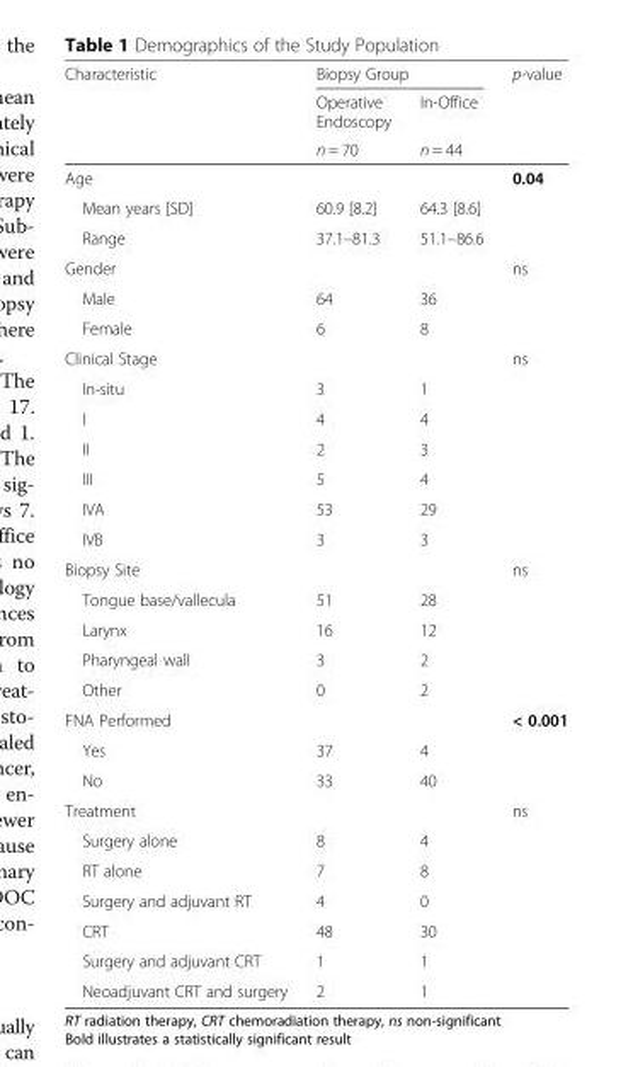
<table><thead><tr><td rowspan="3">Characteristic</td><td colspan="2">Biopsy Group</td><td rowspan="3">p-value</td></tr><tr><td rowspan="2">Operative Endoscopy n = 70</td><td rowspan="2">In-Office n = 44</td></tr><tr></tr></thead><tbody><tr><td>Age</td><td></td><td></td><td>0.04</td></tr><tr><td>Mean years [SD]</td><td>60.9 [8.2]</td><td>64.3 [8.6]</td><td></td></tr><tr><td>Range</td><td>37.1–81.3</td><td>51.1–86.6</td><td></td></tr><tr><td>Gender</td><td></td><td></td><td>ns</td></tr><tr><td>Male</td><td>64</td><td>36</td><td></td></tr><tr><td>Female</td><td>6</td><td>8</td><td></td></tr><tr><td>Clinical Stage</td><td></td><td></td><td>ns</td></tr><tr><td>In-situ</td><td>3</td><td>1</td><td></td></tr><tr><td>I</td><td>4</td><td>4</td><td></td></tr><tr><td>II</td><td>2</td><td>3</td><td></td></tr><tr><td>III</td><td>5</td><td>4</td><td></td></tr><tr><td>IVA</td><td>53</td><td>29</td><td></td></tr><tr><td>IVB</td><td>3</td><td>3</td><td></td></tr><tr><td>Biopsy Site</td><td></td><td></td><td>ns</td></tr><tr><td>Tongue base/vallecula</td><td>51</td><td>28</td><td></td></tr><tr><td>Larynx</td><td>16</td><td>12</td><td></td></tr><tr><td>Pharyngeal wall</td><td>3</td><td>2</td><td></td></tr><tr><td>Other</td><td>0</td><td>2</td><td></td></tr><tr><td>FNA Performed</td><td></td><td></td><td>&lt; 0.001</td></tr><tr><td>Yes</td><td>37</td><td>4</td><td></td></tr><tr><td>No</td><td>33</td><td>40</td><td></td></tr><tr><td>Treatment</td><td></td><td></td><td>ns</td></tr><tr><td>Surgery alone</td><td>8</td><td>4</td><td></td></tr><tr><td>RT alone</td><td>7</td><td>8</td><td></td></tr><tr><td>Surgery and adjuvant RT</td><td>4</td><td>0</td><td></td></tr><tr><td>CRT</td><td>48</td><td>30</td><td></td></tr><tr><td>Surgery and adjuvant CRT</td><td>1</td><td>1</td><td></td></tr><tr><td>Neoadjuvant CRT and surgery</td><td>2</td><td>1</td><td></td></tr></tbody></table>